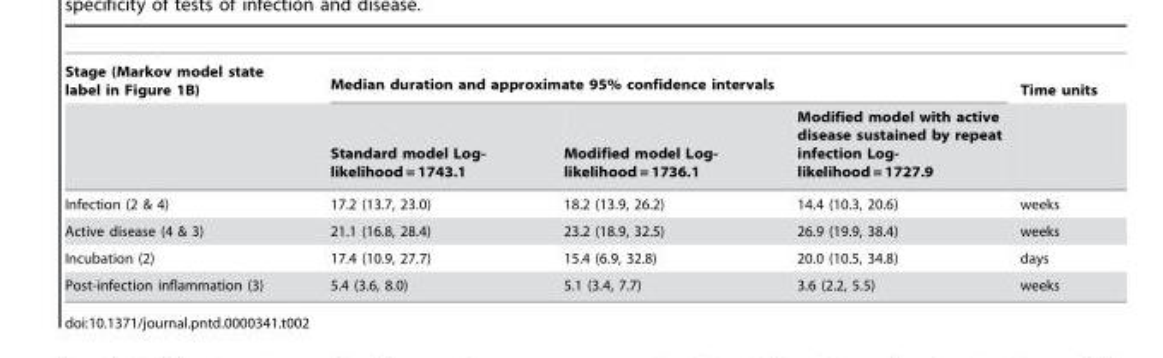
<table><thead><tr><td rowspan="2">Stage (Markov model state label in Figure 1B)</td><td colspan="3">Median duration and approximate 95% confidence intervals</td><td rowspan="2">Time units</td></tr><tr><td>Standard model Log- likelihood = 1743.1</td><td>Modified model Log- likelihood = 1736.1</td><td>Modified model with active disease sustained by repeat infection Log- likelihood = 1727.9</td></tr></thead><tbody><tr><td>Infection (2 &amp; 4)</td><td>17.2 (13.7, 23.0)</td><td>18.2 (13.9, 26.2)</td><td>14.4 (10.3, 20.6)</td><td>weeks</td></tr><tr><td>Active disease (4 &amp; 3)</td><td>21.1 (16.8, 28.4)</td><td>23.2 (18.9, 32.5)</td><td>26.9 (19.9, 38.4)</td><td>weeks</td></tr><tr><td>Incubation (2)</td><td>17.4 (10.9, 27.7)</td><td>15.4 (6.9, 32.8)</td><td>20.0 (10.5, 34.8)</td><td>days</td></tr><tr><td>Post-infection inflammation (3)</td><td>5.4 (3.6, 8.0)</td><td>5.1 (3.4, 7.7)</td><td>3.6 (2.2, 5.5)</td><td>weeks</td></tr></tbody></table>